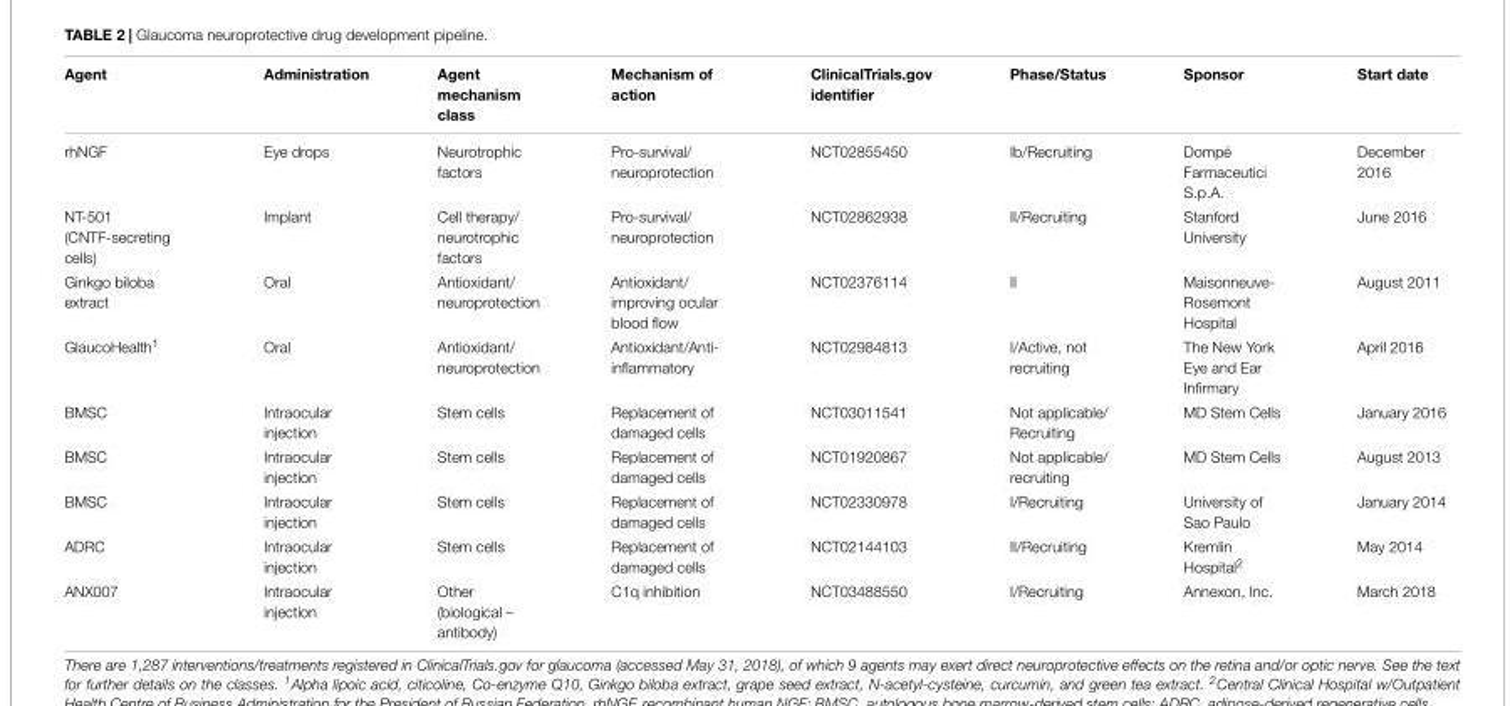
<table><thead><tr><td>Agent</td><td>Administration</td><td>Agent mechanism class</td><td>Mechanism of action</td><td>ClinicalTrials.gov identifier</td><td>Phase/Status</td><td>Sponsor</td><td>Start date</td></tr></thead><tbody><tr><td>rhNGF</td><td>Eye drops</td><td>Neurotrophic factors</td><td>Pro-survival/ neuroprotection</td><td>NCT02855450</td><td>Ib/Recruiting</td><td>Dompé Farmaceutici S.p.A.</td><td>December 2016</td></tr><tr><td>NT-501 (CNTF-secreting cells)</td><td>Implant</td><td>Cell therapy/ neurotrophic factors</td><td>Pro-survival/ neuroprotection</td><td>NCT02862938</td><td>II/Recruiting</td><td>Stanford University</td><td>June 2016</td></tr><tr><td>Ginkgo biloba extract</td><td>Oral</td><td>Antioxidant/ neuroprotection</td><td>Antioxidant/ improving ocular blood flow</td><td>NCT02376114</td><td>II</td><td>Maisonneuve- Rosemont Hospital</td><td>August 2011</td></tr><tr><td>GlaucoHealth<sup>1</sup></td><td>Oral</td><td>Antioxidant/ neuroprotection</td><td>Antioxidant/Anti- inflammatory</td><td>NCT02984813</td><td>I/Active, not recruiting</td><td>The New York Eye and Ear Infirmary</td><td>April 2016</td></tr><tr><td>BMSC</td><td>Intraocular injection</td><td>Stem cells</td><td>Replacement of damaged cells</td><td>NCT03011541</td><td>Not applicable/ Recruiting</td><td>MD Stem Cells</td><td>January 2016</td></tr><tr><td>BMSC</td><td>Intraocular injection</td><td>Stem cells</td><td>Replacement of damaged cells</td><td>NCT01920867</td><td>Not applicable/ recruiting</td><td>MD Stem Cells</td><td>August 2013</td></tr><tr><td>BMSC</td><td>Intraocular injection</td><td>Stem cells</td><td>Replacement of damaged cells</td><td>NCT02330978</td><td>I/Recruiting</td><td>University of Sao Paulo</td><td>January 2014</td></tr><tr><td>ADRC</td><td>Intraocular injection</td><td>Stem cells</td><td>Replacement of damaged cells</td><td>NCT02144103</td><td>II/Recruiting</td><td>Kremlin Hospital<sup>2</sup></td><td>May 2014</td></tr><tr><td>ANX007</td><td>Intraocular injection</td><td>Other (biological – antibody)</td><td>C1q inhibition</td><td>NCT03488550</td><td>I/Recruiting</td><td>Annexon, Inc.</td><td>March 2018</td></tr></tbody></table>